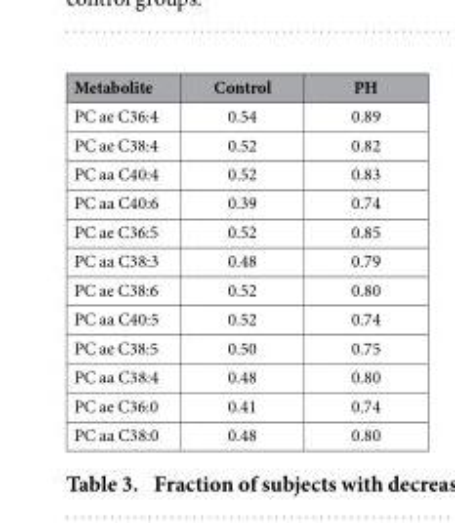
<table><thead><tr><td>Metabolite</td><td>Control</td><td>PH</td></tr></thead><tbody><tr><td>PC ae C36:4</td><td>0.54</td><td>0.89</td></tr><tr><td>PC ae C38:4</td><td>0.52</td><td>0.82</td></tr><tr><td>PC aa C40:4</td><td>0.52</td><td>0.83</td></tr><tr><td>PC aa C40:6</td><td>0.39</td><td>0.74</td></tr><tr><td>PC ae C36:5</td><td>0.52</td><td>0.85</td></tr><tr><td>PC aa C38:3</td><td>0.48</td><td>0.79</td></tr><tr><td>PC ae C38:6</td><td>0.52</td><td>0.80</td></tr><tr><td>PC aa C40:5</td><td>0.52</td><td>0.74</td></tr><tr><td>PC ae C38:5</td><td>0.50</td><td>0.75</td></tr><tr><td>PC aa C38:4</td><td>0.48</td><td>0.80</td></tr><tr><td>PC ae C36:0</td><td>0.41</td><td>0.74</td></tr><tr><td>PC aa C38:0</td><td>0.48</td><td>0.80</td></tr></tbody></table>